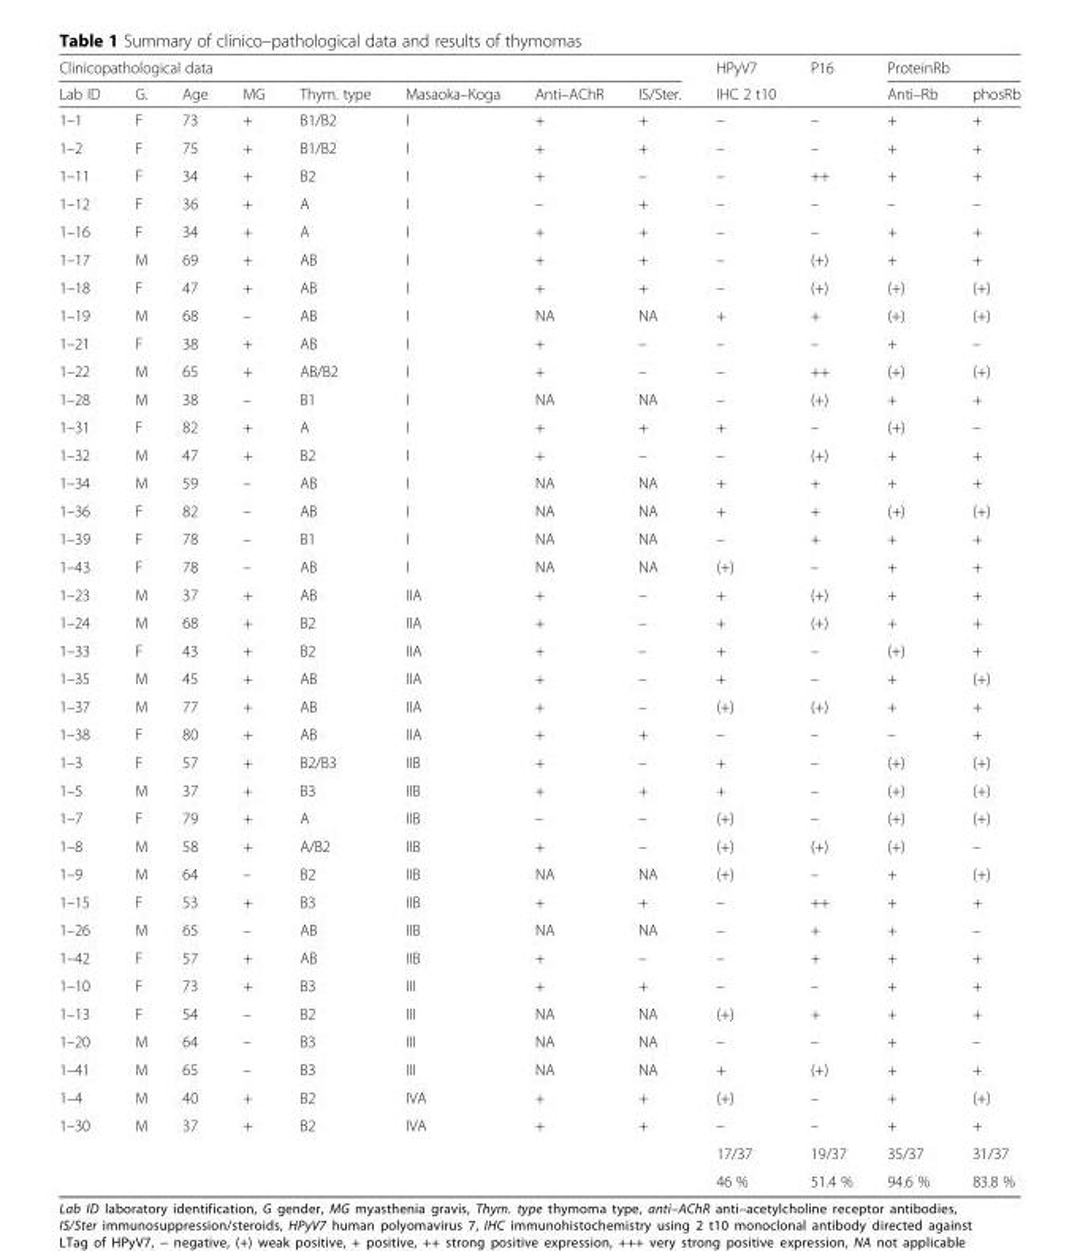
<table><thead><tr><td colspan="8">Clinicopathological data</td><td rowspan="2">HPyV7 IHC 2 t10</td><td rowspan="2">P16</td><td colspan="2">ProteinRb</td></tr><tr><td>Lab ID</td><td>G.</td><td>Age</td><td>MG</td><td>Thym. type</td><td>Masaoka–Koga</td><td>Anti–AChR</td><td>IS/Ster.</td><td>Anti–Rb</td><td>phosRb</td></tr></thead><tbody><tr><td>1–1</td><td>F</td><td>73</td><td>+</td><td>B1/B2</td><td>I</td><td>+</td><td>+</td><td>–</td><td>–</td><td>+</td><td>+</td></tr><tr><td>1–2</td><td>F</td><td>75</td><td>+</td><td>B1/B2</td><td>I</td><td>+</td><td>+</td><td>–</td><td>–</td><td>+</td><td>+</td></tr><tr><td>1–11</td><td>F</td><td>34</td><td>+</td><td>B2</td><td>I</td><td>+</td><td>–</td><td>–</td><td>++</td><td>+</td><td>+</td></tr><tr><td>1–12</td><td>F</td><td>36</td><td>+</td><td>A</td><td>I</td><td>–</td><td>+</td><td>–</td><td>–</td><td>–</td><td>–</td></tr><tr><td>1–16</td><td>F</td><td>34</td><td>+</td><td>A</td><td>I</td><td>+</td><td>+</td><td>–</td><td>–</td><td>+</td><td>+</td></tr><tr><td>1–17</td><td>M</td><td>69</td><td>+</td><td>AB</td><td>I</td><td>+</td><td>+</td><td>–</td><td>(+)</td><td>+</td><td>+</td></tr><tr><td>1–18</td><td>F</td><td>47</td><td>+</td><td>AB</td><td>I</td><td>+</td><td>+</td><td>–</td><td>(+)</td><td>(+)</td><td>(+)</td></tr><tr><td>1–19</td><td>M</td><td>68</td><td>–</td><td>AB</td><td>I</td><td>NA</td><td>NA</td><td>+</td><td>+</td><td>(+)</td><td>(+)</td></tr><tr><td>1–21</td><td>F</td><td>38</td><td>+</td><td>AB</td><td>I</td><td>+</td><td>–</td><td>–</td><td>–</td><td>+</td><td>–</td></tr><tr><td>1–22</td><td>M</td><td>65</td><td>+</td><td>AB/B2</td><td>I</td><td>+</td><td>–</td><td>–</td><td>++</td><td>(+)</td><td>(+)</td></tr><tr><td>1–28</td><td>M</td><td>38</td><td>–</td><td>B1</td><td>I</td><td>NA</td><td>NA</td><td>–</td><td>(+)</td><td>+</td><td>+</td></tr><tr><td>1–31</td><td>F</td><td>82</td><td>+</td><td>A</td><td>I</td><td>+</td><td>+</td><td>+</td><td>–</td><td>(+)</td><td>–</td></tr><tr><td>1–32</td><td>M</td><td>47</td><td>+</td><td>B2</td><td>I</td><td>+</td><td>–</td><td>–</td><td>(+)</td><td>+</td><td>+</td></tr><tr><td>1–34</td><td>M</td><td>59</td><td>–</td><td>AB</td><td>I</td><td>NA</td><td>NA</td><td>+</td><td>+</td><td>+</td><td>+</td></tr><tr><td>1–36</td><td>F</td><td>82</td><td>–</td><td>AB</td><td>I</td><td>NA</td><td>NA</td><td>+</td><td>+</td><td>(+)</td><td>(+)</td></tr><tr><td>1–39</td><td>F</td><td>78</td><td>–</td><td>B1</td><td>I</td><td>NA</td><td>NA</td><td>–</td><td>+</td><td>+</td><td>+</td></tr><tr><td>1–43</td><td>F</td><td>78</td><td>–</td><td>AB</td><td>I</td><td>NA</td><td>NA</td><td>(+)</td><td>–</td><td>+</td><td>+</td></tr><tr><td>1–23</td><td>M</td><td>37</td><td>+</td><td>AB</td><td>IIA</td><td>+</td><td>–</td><td>+</td><td>(+)</td><td>+</td><td>+</td></tr><tr><td>1–24</td><td>M</td><td>68</td><td>+</td><td>B2</td><td>IIA</td><td>+</td><td>–</td><td>+</td><td>(+)</td><td>+</td><td>+</td></tr><tr><td>1–33</td><td>F</td><td>43</td><td>+</td><td>B2</td><td>IIA</td><td>+</td><td>–</td><td>+</td><td>–</td><td>(+)</td><td>+</td></tr><tr><td>1–35</td><td>M</td><td>45</td><td>+</td><td>AB</td><td>IIA</td><td>+</td><td>–</td><td>+</td><td>–</td><td>+</td><td>(+)</td></tr><tr><td>1–37</td><td>M</td><td>77</td><td>+</td><td>AB</td><td>IIA</td><td>+</td><td>–</td><td>(+)</td><td>(+)</td><td>+</td><td>+</td></tr><tr><td>1–38</td><td>F</td><td>80</td><td>+</td><td>AB</td><td>IIA</td><td>+</td><td>+</td><td>–</td><td>–</td><td>–</td><td>+</td></tr><tr><td>1–3</td><td>F</td><td>57</td><td>+</td><td>B2/B3</td><td>IIB</td><td>+</td><td>–</td><td>+</td><td>–</td><td>(+)</td><td>(+)</td></tr><tr><td>1–5</td><td>M</td><td>37</td><td>+</td><td>B3</td><td>IIB</td><td>+</td><td>+</td><td>+</td><td>–</td><td>(+)</td><td>(+)</td></tr><tr><td>1–7</td><td>F</td><td>79</td><td>+</td><td>A</td><td>IIB</td><td>–</td><td>–</td><td>(+)</td><td>–</td><td>(+)</td><td>(+)</td></tr><tr><td>1–8</td><td>M</td><td>58</td><td>+</td><td>A/B2</td><td>IIB</td><td>+</td><td>–</td><td>(+)</td><td>(+)</td><td>(+)</td><td>–</td></tr><tr><td>1–9</td><td>M</td><td>64</td><td>–</td><td>B2</td><td>IIB</td><td>NA</td><td>NA</td><td>(+)</td><td>–</td><td>+</td><td>(+)</td></tr><tr><td>1–15</td><td>F</td><td>53</td><td>+</td><td>B3</td><td>IIB</td><td>+</td><td>+</td><td>–</td><td>++</td><td>+</td><td>+</td></tr><tr><td>1–26</td><td>M</td><td>65</td><td>–</td><td>AB</td><td>IIB</td><td>NA</td><td>NA</td><td>–</td><td>+</td><td>+</td><td>–</td></tr><tr><td>1–42</td><td>F</td><td>57</td><td>+</td><td>AB</td><td>IIB</td><td>+</td><td>–</td><td>–</td><td>+</td><td>+</td><td>+</td></tr><tr><td>1–10</td><td>F</td><td>73</td><td>+</td><td>B3</td><td>III</td><td>+</td><td>+</td><td>–</td><td>–</td><td>+</td><td>+</td></tr><tr><td>1–13</td><td>F</td><td>54</td><td>–</td><td>B2</td><td>III</td><td>NA</td><td>NA</td><td>(+)</td><td>+</td><td>+</td><td>+</td></tr><tr><td>1–20</td><td>M</td><td>64</td><td>–</td><td>B3</td><td>III</td><td>NA</td><td>NA</td><td>–</td><td>–</td><td>+</td><td>–</td></tr><tr><td>1–41</td><td>M</td><td>65</td><td>–</td><td>B3</td><td>III</td><td>NA</td><td>NA</td><td>+</td><td>(+)</td><td>+</td><td>+</td></tr><tr><td>1–4</td><td>M</td><td>40</td><td>+</td><td>B2</td><td>IVA</td><td>+</td><td>+</td><td>(+)</td><td>–</td><td>+</td><td>(+)</td></tr><tr><td rowspan="3">1–30</td><td>M</td><td>37</td><td>+</td><td>B2</td><td>IVA</td><td>+</td><td>+</td><td>–</td><td>–</td><td>+</td><td>+</td></tr><tr><td rowspan="2"></td><td rowspan="2"></td><td rowspan="2"></td><td rowspan="2"></td><td rowspan="2"></td><td rowspan="2"></td><td rowspan="2"></td><td>17/37</td><td>19/37</td><td>35/37</td><td>31/37</td></tr><tr><td>46 %</td><td>51.4 %</td><td>94.6 %</td><td>83.8 %</td></tr></tbody></table>